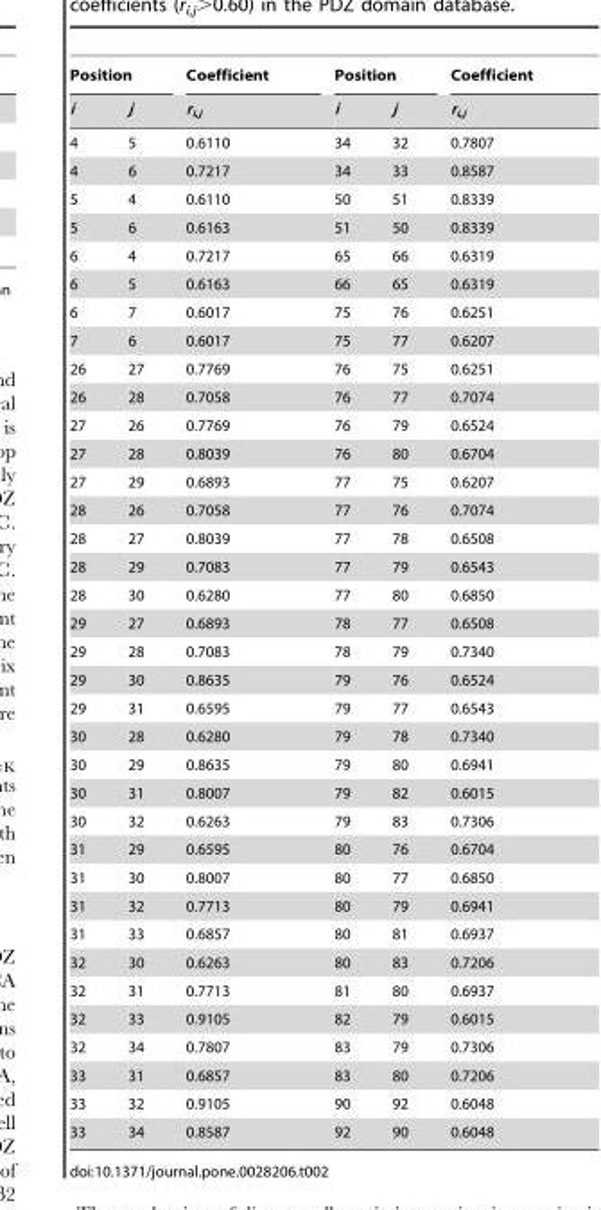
<table><thead><tr><td colspan="2">Position</td><td rowspan="2">Coefficient r<sub>i,j</sub></td><td colspan="2">Position</td><td rowspan="2">Coefficient r<sub>i,j</sub></td></tr><tr><td>i</td><td>j</td><td>i</td><td>j</td></tr></thead><tbody><tr><td>4</td><td>5</td><td>0.6110</td><td>34</td><td>32</td><td>0.7807</td></tr><tr><td>4</td><td>6</td><td>0.7217</td><td>34</td><td>33</td><td>0.8587</td></tr><tr><td>5</td><td>4</td><td>0.6110</td><td>50</td><td>51</td><td>0.8339</td></tr><tr><td>5</td><td>6</td><td>0.6163</td><td>51</td><td>50</td><td>0.8339</td></tr><tr><td>6</td><td>4</td><td>0.7217</td><td>65</td><td>66</td><td>0.6319</td></tr><tr><td>6</td><td>5</td><td>0.6163</td><td>66</td><td>65</td><td>0.6319</td></tr><tr><td>6</td><td>7</td><td>0.6017</td><td>75</td><td>76</td><td>0.6251</td></tr><tr><td>7</td><td>6</td><td>0.6017</td><td>75</td><td>77</td><td>0.6207</td></tr><tr><td>26</td><td>27</td><td>0.7769</td><td>76</td><td>75</td><td>0.6251</td></tr><tr><td>26</td><td>28</td><td>0.7058</td><td>76</td><td>77</td><td>0.7074</td></tr><tr><td>27</td><td>26</td><td>0.7769</td><td>76</td><td>79</td><td>0.6524</td></tr><tr><td>27</td><td>28</td><td>0.8039</td><td>76</td><td>80</td><td>0.6704</td></tr><tr><td>27</td><td>29</td><td>0.6893</td><td>77</td><td>75</td><td>0.6207</td></tr><tr><td>28</td><td>26</td><td>0.7058</td><td>77</td><td>76</td><td>0.7074</td></tr><tr><td>28</td><td>27</td><td>0.8039</td><td>77</td><td>78</td><td>0.6508</td></tr><tr><td>28</td><td>29</td><td>0.7083</td><td>77</td><td>79</td><td>0.6543</td></tr><tr><td>28</td><td>30</td><td>0.6280</td><td>77</td><td>80</td><td>0.6850</td></tr><tr><td>29</td><td>27</td><td>0.6893</td><td>78</td><td>77</td><td>0.6508</td></tr><tr><td>29</td><td>28</td><td>0.7083</td><td>78</td><td>79</td><td>0.7340</td></tr><tr><td>29</td><td>30</td><td>0.8635</td><td>79</td><td>76</td><td>0.6524</td></tr><tr><td>29</td><td>31</td><td>0.6595</td><td>79</td><td>77</td><td>0.6543</td></tr><tr><td>30</td><td>28</td><td>0.6280</td><td>79</td><td>78</td><td>0.7340</td></tr><tr><td>30</td><td>29</td><td>0.8635</td><td>79</td><td>80</td><td>0.6941</td></tr><tr><td>30</td><td>31</td><td>0.8007</td><td>79</td><td>82</td><td>0.6015</td></tr><tr><td>30</td><td>32</td><td>0.6263</td><td>79</td><td>83</td><td>0.7306</td></tr><tr><td>31</td><td>29</td><td>0.6595</td><td>80</td><td>76</td><td>0.6704</td></tr><tr><td>31</td><td>30</td><td>0.8007</td><td>80</td><td>77</td><td>0.6850</td></tr><tr><td>31</td><td>32</td><td>0.7713</td><td>80</td><td>79</td><td>0.6941</td></tr><tr><td>31</td><td>33</td><td>0.6857</td><td>80</td><td>81</td><td>0.6937</td></tr><tr><td>32</td><td>30</td><td>0.6263</td><td>80</td><td>83</td><td>0.7206</td></tr><tr><td>32</td><td>31</td><td>0.7713</td><td>81</td><td>80</td><td>0.6937</td></tr><tr><td>32</td><td>33</td><td>0.9105</td><td>82</td><td>79</td><td>0.6015</td></tr><tr><td>32</td><td>34</td><td>0.7807</td><td>83</td><td>79</td><td>0.7306</td></tr><tr><td>33</td><td>31</td><td>0.6857</td><td>83</td><td>80</td><td>0.7206</td></tr><tr><td>33</td><td>32</td><td>0.9105</td><td>90</td><td>92</td><td>0.6048</td></tr><tr><td>33</td><td>34</td><td>0.8587</td><td>92</td><td>90</td><td>0.6048</td></tr></tbody></table>